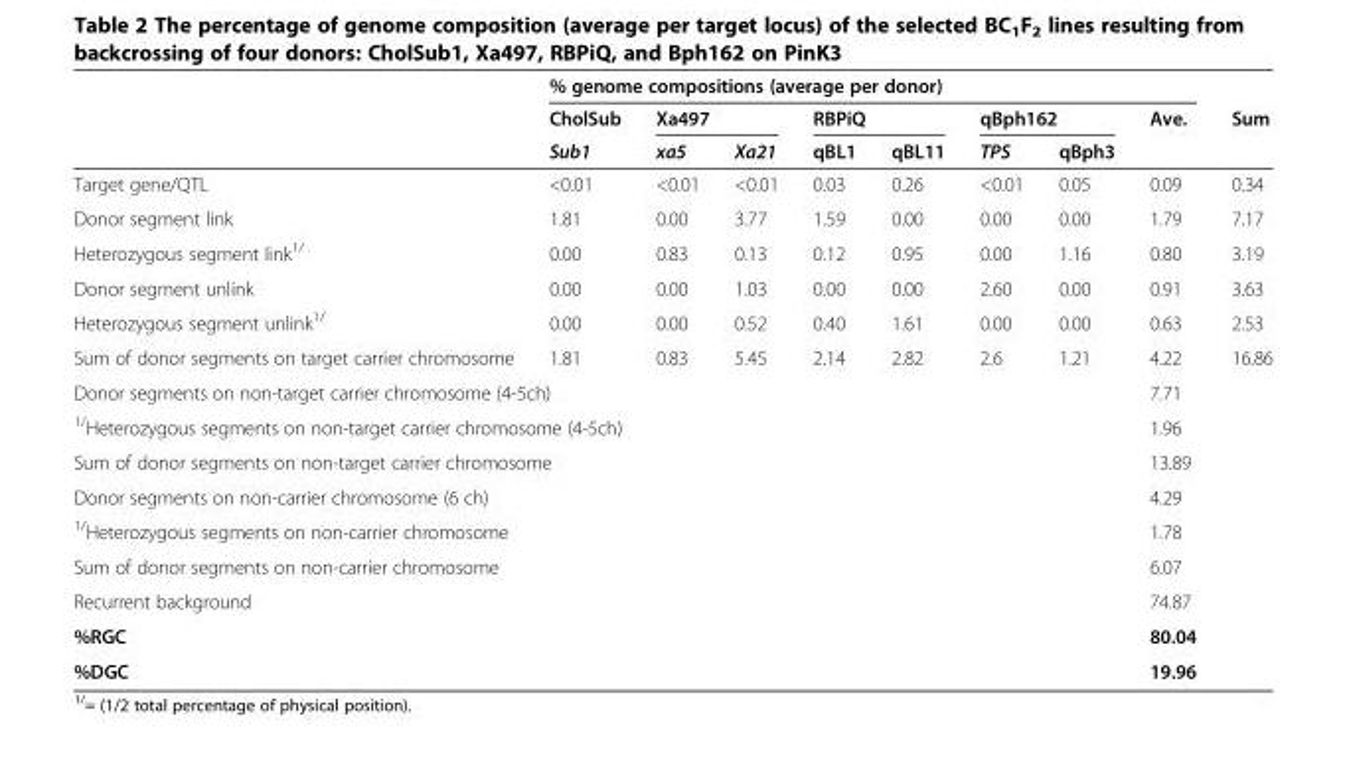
<table><thead><tr><td rowspan="3"></td><td colspan="8">% genome compositions (average per donor)</td><td rowspan="3">Sum</td></tr><tr><td rowspan="2">CholSub Sub1</td><td colspan="2">Xa497</td><td colspan="2">RBPiQ</td><td colspan="2">qBph162</td><td rowspan="2">Ave.</td></tr><tr><td>xa5</td><td>Xa21</td><td>qBL1</td><td>qBL11</td><td>TPS</td><td>qBph3</td></tr></thead><tbody><tr><td>Target gene/QTL</td><td>&lt;0.01</td><td>&lt;0.01</td><td>&lt;0.01</td><td>0.03</td><td>0.26</td><td>&lt;0.01</td><td>0.05</td><td>0.09</td><td>0.34</td></tr><tr><td>Donor segment link</td><td>1.81</td><td>0.00</td><td>3.77</td><td>1.59</td><td>0.00</td><td>0.00</td><td>0.00</td><td>1.79</td><td>7.17</td></tr><tr><td>Heterozygous segment link<sup>1/</sup></td><td>0.00</td><td>0.83</td><td>0.13</td><td>0.12</td><td>0.95</td><td>0.00</td><td>1.16</td><td>0.80</td><td>3.19</td></tr><tr><td>Donor segment unlink</td><td>0.00</td><td>0.00</td><td>1.03</td><td>0.00</td><td>0.00</td><td>2.60</td><td>0.00</td><td>0.91</td><td>3.63</td></tr><tr><td>Heterozygous segment unlink<sup>1/</sup></td><td>0.00</td><td>0.00</td><td>0.52</td><td>0.40</td><td>1.61</td><td>0.00</td><td>0.00</td><td>0.63</td><td>2.53</td></tr><tr><td>Sum of donor segments on target carrier chromosome</td><td>1.81</td><td>0.83</td><td>5.45</td><td>2.14</td><td>2.82</td><td>2.6</td><td>1.21</td><td>4.22</td><td>16.86</td></tr><tr><td colspan="8">Donor segments on non-target carrier chromosome (4-5ch)</td><td>7.71</td><td></td></tr><tr><td colspan="8"><sup>1/</sup>Heterozygous segments on non-target carrier chromosome (4-5ch)</td><td>1.96</td><td></td></tr><tr><td colspan="8">Sum of donor segments on non-target carrier chromosome</td><td>13.89</td><td></td></tr><tr><td colspan="8">Donor segments on non-carrier chromosome (6 ch)</td><td>4.29</td><td></td></tr><tr><td colspan="8"><sup>1/</sup>Heterozygous segments on non-carrier chromosome</td><td>1.78</td><td></td></tr><tr><td colspan="8">Sum of donor segments on non-carrier chromosome</td><td>6.07</td><td></td></tr><tr><td colspan="8">Recurrent background</td><td>74.87</td><td></td></tr><tr><td colspan="8">%RGC</td><td>80.04</td><td></td></tr><tr><td colspan="8">%DGC</td><td>19.96</td><td></td></tr></tbody></table>